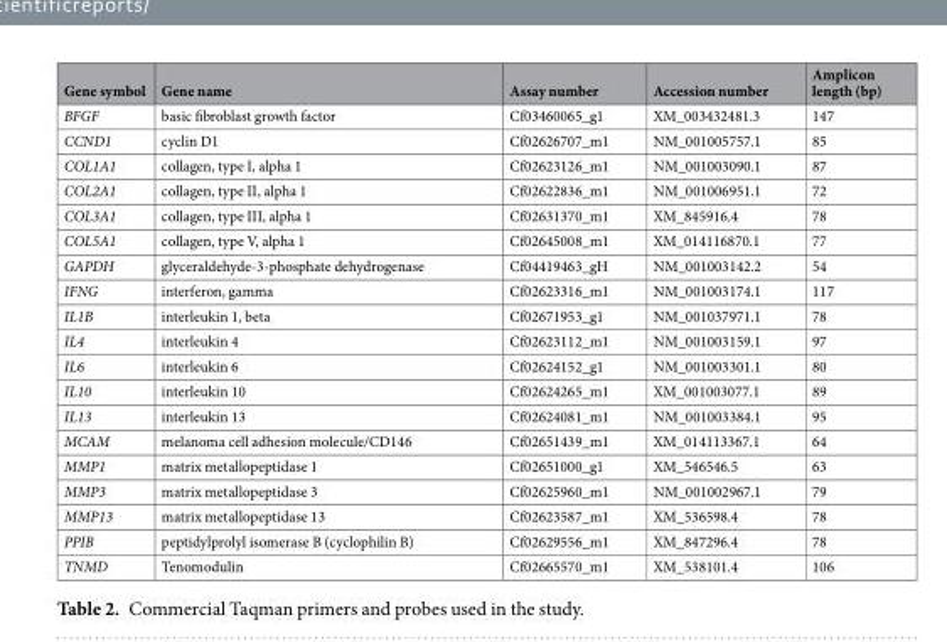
<table><thead><tr><td>Gene symbol</td><td>Gene name</td><td>Assay number</td><td>Accession number</td><td>Amplicon length (bp)</td></tr></thead><tbody><tr><td>BFGF</td><td>basic fibroblast growth factor</td><td>Cf03460065_g1</td><td>XM_003432481.3</td><td>147</td></tr><tr><td>CCND1</td><td>cyclin D1</td><td>Cf02626707_m1</td><td>NM_001005757.1</td><td>85</td></tr><tr><td>COL1A1</td><td>collagen, type I, alpha 1</td><td>Cf02623126_m1</td><td>NM_001003090.1</td><td>87</td></tr><tr><td>COL2A1</td><td>collagen, type II, alpha 1</td><td>Cf02622836_m1</td><td>NM_001006951.1</td><td>72</td></tr><tr><td>COL3A1</td><td>collagen, type III, alpha 1</td><td>Cf02631370_m1</td><td>XM_845916.4</td><td>78</td></tr><tr><td>COL5A1</td><td>collagen, type V, alpha 1</td><td>Cf02645008_m1</td><td>XM_014116870.1</td><td>77</td></tr><tr><td>GAPDH</td><td>glyceraldehyde-3-phosphate dehydrogenase</td><td>Cf04419463_gH</td><td>NM_001003142.2</td><td>54</td></tr><tr><td>IFNG</td><td>interferon, gamma</td><td>Cf02623316_m1</td><td>NM_001003174.1</td><td>117</td></tr><tr><td>IL1B</td><td>interleukin 1, beta</td><td>Cf02671953_g1</td><td>NM_001037971.1</td><td>78</td></tr><tr><td>IL4</td><td>interleukin 4</td><td>Cf02623112_m1</td><td>NM_001003159.1</td><td>97</td></tr><tr><td>IL6</td><td>interleukin 6</td><td>Cf02624152_g1</td><td>NM_001003301.1</td><td>80</td></tr><tr><td>IL10</td><td>interleukin 10</td><td>Cf02624265_m1</td><td>XM_001003077.1</td><td>89</td></tr><tr><td>IL13</td><td>interleukin 13</td><td>Cf02624081_m1</td><td>NM_001003384.1</td><td>95</td></tr><tr><td>MCAM</td><td>melanoma cell adhesion molecule/CD146</td><td>Cf02651439_m1</td><td>XM_014113367.1</td><td>64</td></tr><tr><td>MMP1</td><td>matrix metallopeptidase 1</td><td>Cf02651000_g1</td><td>XM_546546.5</td><td>63</td></tr><tr><td>MMP3</td><td>matrix metallopeptidase 3</td><td>Cf02625960_m1</td><td>NM_001002967.1</td><td>79</td></tr><tr><td>MMP13</td><td>matrix metallopeptidase 13</td><td>Cf02623587_m1</td><td>XM_536598.4</td><td>78</td></tr><tr><td>PPIB</td><td>peptidylprolyl isomerase B (cyclophilin B)</td><td>Cf02629556_m1</td><td>XM_847296.4</td><td>78</td></tr><tr><td>TNMD</td><td>Tenomodulin</td><td>Cf02665570_m1</td><td>XM_538101.4</td><td>106</td></tr></tbody></table>